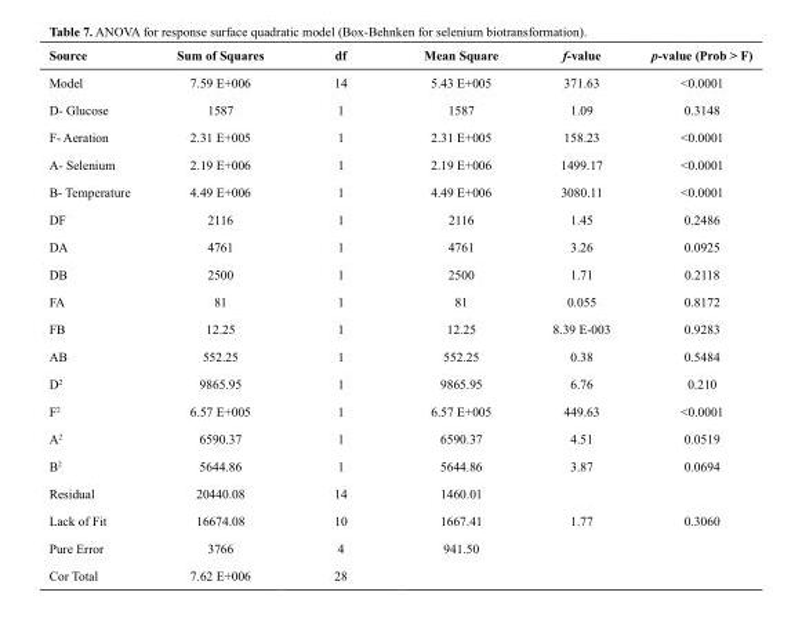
<table><thead><tr><td>Source</td><td>Sum of Squares</td><td>df</td><td>Mean Square</td><td>f-value</td><td>p-value (Prob ˃ F)</td></tr></thead><tbody><tr><td>Model</td><td>7.59 E+006</td><td>14</td><td>5.43 E+005</td><td>371.63</td><td>˂0.0001</td></tr><tr><td>D- Glucose</td><td>1587</td><td>1</td><td>1587</td><td>1.09</td><td>0.3148</td></tr><tr><td>F- Aeration</td><td>2.31 E+005</td><td>1</td><td>2.31 E+005</td><td>158.23</td><td>˂0.0001</td></tr><tr><td>A- Selenium</td><td>2.19 E+006</td><td>1</td><td>2.19 E+006</td><td>1499.17</td><td>˂0.0001</td></tr><tr><td>B- Temperature</td><td>4.49 E+006</td><td>1</td><td>4.49 E+006</td><td>3080.11</td><td>˂0.0001</td></tr><tr><td>DF</td><td>2116</td><td>1</td><td>2116</td><td>1.45</td><td>0.2486</td></tr><tr><td>DA</td><td>4761</td><td>1</td><td>4761</td><td>3.26</td><td>0.0925</td></tr><tr><td>DB</td><td>2500</td><td>1</td><td>2500</td><td>1.71</td><td>0.2118</td></tr><tr><td>FA</td><td>81</td><td>1</td><td>81</td><td>0.055</td><td>0.8172</td></tr><tr><td>FB</td><td>12.25</td><td>1</td><td>12.25</td><td>8.39 E-003</td><td>0.9283</td></tr><tr><td>AB</td><td>552.25</td><td>1</td><td>552.25</td><td>0.38</td><td>0.5484</td></tr><tr><td>D<sup>2</sup></td><td>9865.95</td><td>1</td><td>9865.95</td><td>6.76</td><td>0.210</td></tr><tr><td>F<sup>2</sup></td><td>6.57 E+005</td><td>1</td><td>6.57 E+005</td><td>449.63</td><td>˂0.0001</td></tr><tr><td>A<sup>2</sup></td><td>6590.37</td><td>1</td><td>6590.37</td><td>4.51</td><td>0.0519</td></tr><tr><td>B<sup>2</sup></td><td>5644.86</td><td>1</td><td>5644.86</td><td>3.87</td><td>0.0694</td></tr><tr><td>Residual</td><td>20440.08</td><td>14</td><td>1460.01</td><td></td><td></td></tr><tr><td>Lack of Fit</td><td>16674.08</td><td>10</td><td>1667.41</td><td>1.77</td><td>0.3060</td></tr><tr><td>Pure Error</td><td>3766</td><td>4</td><td>941.50</td><td></td><td></td></tr><tr><td>Cor Total</td><td>7.62 E+006</td><td>28</td><td></td><td></td><td></td></tr></tbody></table>